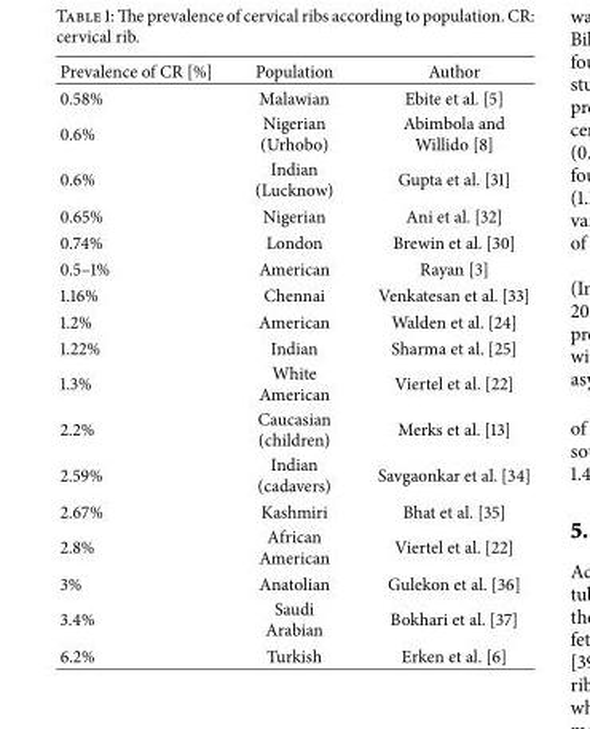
<table><thead><tr><td>Prevalence of CR [%]</td><td>Population</td><td>Author</td></tr></thead><tbody><tr><td>0.58%</td><td>Malawian</td><td>Ebite et al. [5]</td></tr><tr><td>0.6%</td><td>Nigerian (Urhobo)</td><td>Abimbola and Willido [8]</td></tr><tr><td>0.6%</td><td>Indian (Lucknow)</td><td>Gupta et al. [31]</td></tr><tr><td>0.65%</td><td>Nigerian</td><td>Ani et al. [32]</td></tr><tr><td>0.74%</td><td>London</td><td>Brewin et al. [30]</td></tr><tr><td>0.5–1%</td><td>American</td><td>Rayan [3]</td></tr><tr><td>1.16%</td><td>Chennai</td><td>Venkatesan et al. [33]</td></tr><tr><td>1.2%</td><td>American</td><td>Walden et al. [24]</td></tr><tr><td>1.22%</td><td>Indian</td><td>Sharma et al. [25]</td></tr><tr><td>1.3%</td><td>White American</td><td>Viertel et al. [22]</td></tr><tr><td>2.2%</td><td>Caucasian (children)</td><td>Merks et al. [13]</td></tr><tr><td>2.59%</td><td>Indian (cadavers)</td><td>Savgaonkar et al. [34]</td></tr><tr><td>2.67%</td><td>Kashmiri</td><td>Bhat et al. [35]</td></tr><tr><td>2.8%</td><td>African American</td><td>Viertel et al. [22]</td></tr><tr><td>3%</td><td>Anatolian</td><td>Gulekon et al. [36]</td></tr><tr><td>3.4%</td><td>Saudi Arabian</td><td>Bokhari et al. [37]</td></tr><tr><td>6.2%</td><td>Turkish</td><td>Erken et al. [6]</td></tr></tbody></table>